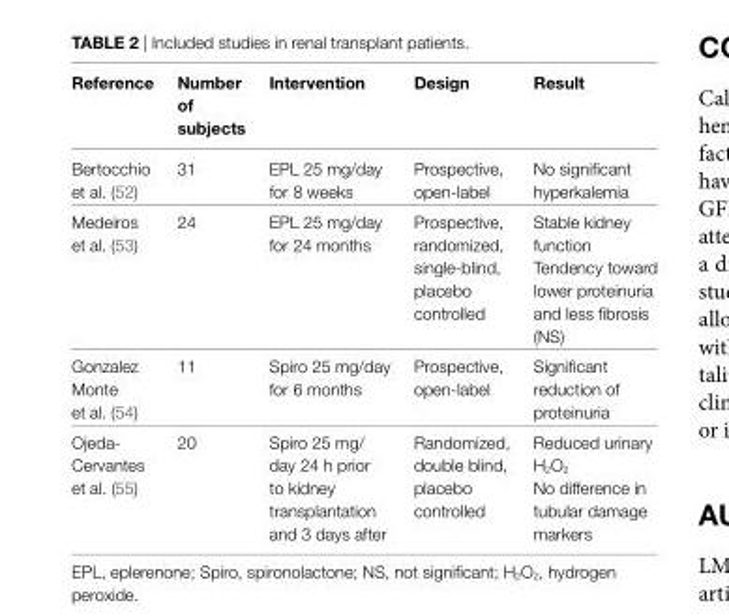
<table><thead><tr><td>Reference</td><td>number of subjects</td><td>intervention</td><td>Design</td><td>Result</td></tr></thead><tbody><tr><td>Bertocchio et al. (52)</td><td>31</td><td>EPL 25 mg/day for 8 weeks</td><td>Prospective, open-label</td><td>No significant hyperkalemia</td></tr><tr><td rowspan="2">Medeiros et al. (53)</td><td rowspan="2">24</td><td rowspan="2">EPL 25 mg/day for 24 months</td><td rowspan="2">Prospective, randomized, single-blind, placebo controlled</td><td>Stable kidney function</td></tr><tr><td>Tendency toward lower proteinuria and less fibrosis (NS)</td></tr><tr><td>Gonzalez Monte et al. (54)</td><td>11</td><td>Spiro 25 mg/day for 6 months</td><td>Prospective, open-label</td><td>Significant reduction of proteinuria</td></tr><tr><td rowspan="2">Ojeda- Cervantes et al. (55)</td><td rowspan="2">20</td><td rowspan="2">Spiro 25 mg/ day 24 h prior to kidney transplantation and 3 days after</td><td rowspan="2">Randomized, double blind, placebo controlled</td><td>Reduced urinary H<sub>2</sub>O<sub>2</sub></td></tr><tr><td>No difference in tubular damage markers</td></tr></tbody></table>